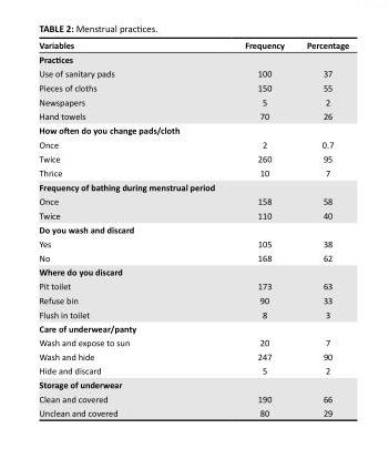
<table><thead><tr><td>Variables</td><td>Frequency</td><td>Percentage</td></tr></thead><tbody><tr><td colspan="3">Practices</td></tr><tr><td>Use of sanitary pads</td><td>100</td><td>37</td></tr><tr><td>Pieces of cloths</td><td>150</td><td>55</td></tr><tr><td>Newspapers</td><td>5</td><td>2</td></tr><tr><td>Hand towels</td><td>70</td><td>26</td></tr><tr><td colspan="3">How often do you change pads/cloth</td></tr><tr><td>Once</td><td>2</td><td>0.7</td></tr><tr><td>Twice</td><td>260</td><td>95</td></tr><tr><td>Thrice</td><td>10</td><td>7</td></tr><tr><td colspan="3">Frequency of bathing during menstrual period</td></tr><tr><td>Once</td><td>158</td><td>58</td></tr><tr><td>Twice</td><td>110</td><td>40</td></tr><tr><td colspan="3">Do you wash and discard</td></tr><tr><td>Yes</td><td>105</td><td>38</td></tr><tr><td>No</td><td>168</td><td>62</td></tr><tr><td colspan="3">Where do you discard</td></tr><tr><td>Pit toilet</td><td>173</td><td>63</td></tr><tr><td>Refuse bin</td><td>90</td><td>33</td></tr><tr><td>Flush in toilet</td><td>8</td><td>3</td></tr><tr><td colspan="3">Care of underwear/panty</td></tr><tr><td>Wash and expose to sun</td><td>20</td><td>7</td></tr><tr><td>Wash and hide</td><td>247</td><td>90</td></tr><tr><td>Hide and discard</td><td>5</td><td>2</td></tr><tr><td colspan="3">Storage of underwear</td></tr><tr><td>Clean and covered</td><td>190</td><td>66</td></tr><tr><td>Unclean and covered</td><td>80</td><td>29</td></tr></tbody></table>